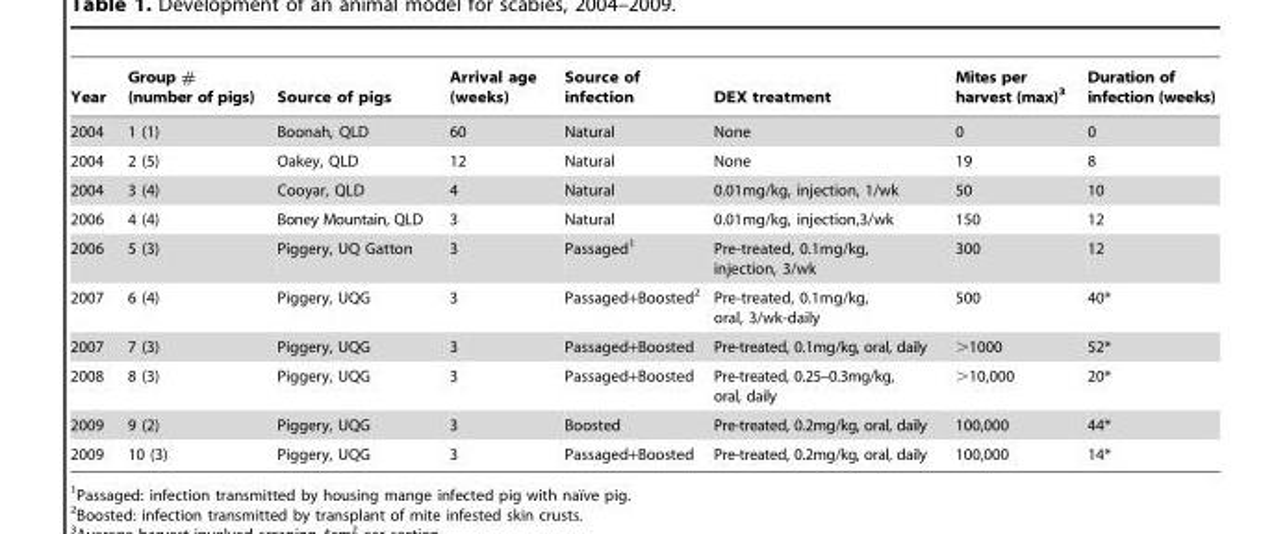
<table><thead><tr><td>Year</td><td>Group # (number of pigs)</td><td>Source of pigs</td><td>Arrival age (weeks)</td><td>Source of infection</td><td>DEX treatment</td><td>Mites per harvest (max)<sup>3</sup></td><td>Duration of infection (weeks)</td></tr></thead><tbody><tr><td>2004</td><td>1 (1)</td><td>Boonah, QLD</td><td>60</td><td>Natural</td><td>None</td><td>0</td><td>0</td></tr><tr><td>2004</td><td>2 (5)</td><td>Oakey, QLD</td><td>12</td><td>Natural</td><td>None</td><td>19</td><td>8</td></tr><tr><td>2004</td><td>3 (4)</td><td>Cooyar, QLD</td><td>4</td><td>Natural</td><td>0.01mg/kg, injection, 1/wk</td><td>50</td><td>10</td></tr><tr><td>2006</td><td>4 (4)</td><td>Boney Mountain, QLD</td><td>3</td><td>Natural</td><td>0.01mg/kg, injection,3/wk</td><td>150</td><td>12</td></tr><tr><td>2006</td><td>5 (3)</td><td>Piggery, UQ Gatton</td><td>3</td><td>Passaged<sup>1</sup></td><td>Pre-treated, 0.1mg/kg, injection, 3/wk</td><td>300</td><td>12</td></tr><tr><td>2007</td><td>6 (4)</td><td>Piggery, UQG</td><td>3</td><td>Passaged+Boosted<sup>2</sup></td><td>Pre-treated, 0.1mg/kg, oral, 3/wk-daily</td><td>500</td><td>40*</td></tr><tr><td>2007</td><td>7 (3)</td><td>Piggery, UQG</td><td>3</td><td>Passaged+Boosted</td><td>Pre-treated, 0.1mg/kg, oral, daily</td><td>&gt;1000</td><td>52*</td></tr><tr><td>2008</td><td>8 (3)</td><td>Piggery, UQG</td><td>3</td><td>Passaged+Boosted</td><td>Pre-treated, 0.25–0.3mg/kg, oral, daily</td><td>&gt;10,000</td><td>20*</td></tr><tr><td>2009</td><td>9 (2)</td><td>Piggery, UQG</td><td>3</td><td>Boosted</td><td>Pre-treated, 0.2mg/kg, oral, daily</td><td>100,000</td><td>44*</td></tr><tr><td>2009</td><td>10 (3)</td><td>Piggery, UQG</td><td>3</td><td>Passaged+Boosted</td><td>Pre-treated, 0.2mg/kg, oral, daily</td><td>100,000</td><td>14*</td></tr></tbody></table>